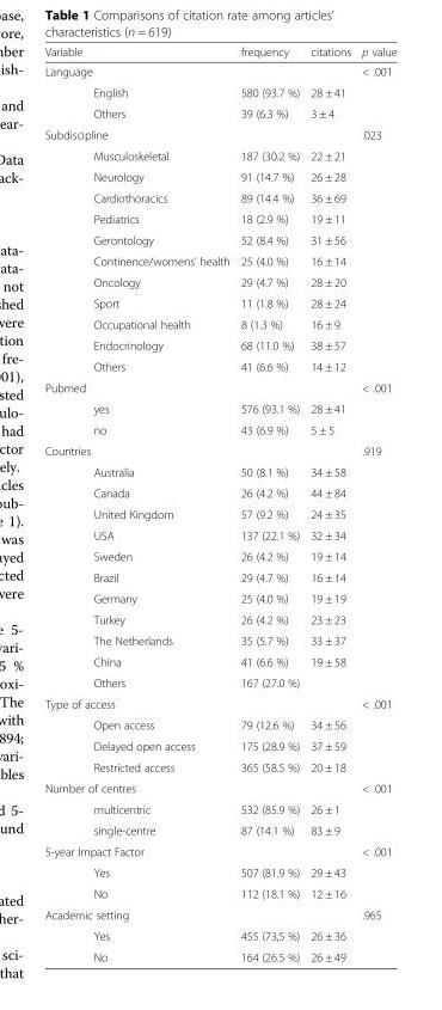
<table><thead><tr><td>Variable</td><td></td><td>frequency</td><td>citations</td><td>p value</td></tr></thead><tbody><tr><td colspan="3">Language</td><td></td><td>&lt; .001</td></tr><tr><td rowspan="2"></td><td>English</td><td>580 (93.7 %)</td><td>28 ± 41</td><td></td></tr><tr><td>Others</td><td>39 (6.3 %)</td><td>3 ± 4</td><td></td></tr><tr><td colspan="3">Subdiscipline</td><td></td><td>.023</td></tr><tr><td rowspan="11"></td><td>Musculoskeletal</td><td>187 (30.2 %)</td><td>22 ± 21</td><td></td></tr><tr><td>Neurology</td><td>91 (14.7 %)</td><td>26 ± 28</td><td></td></tr><tr><td>Cardiothoracics</td><td>89 (14.4 %)</td><td>36 ± 69</td><td></td></tr><tr><td>Pediatrics</td><td>18 (2.9 %)</td><td>19 ± 11</td><td></td></tr><tr><td>Gerontology</td><td>52 (8.4 %)</td><td>31 ± 56</td><td></td></tr><tr><td>Continence/womens’ health</td><td>25 (4.0 %)</td><td>16 ± 14</td><td></td></tr><tr><td>Oncology</td><td>29 (4.7 %)</td><td>28 ± 20</td><td></td></tr><tr><td>Sport</td><td>11 (1.8 %)</td><td>28 ± 24</td><td></td></tr><tr><td>Occupational health</td><td>8 (1.3 %)</td><td>16 ± 9</td><td></td></tr><tr><td>Endocrinology</td><td>68 (11.0 %)</td><td>38 ± 57</td><td></td></tr><tr><td>Others</td><td>41 (6.6 %)</td><td>14 ± 12</td><td></td></tr><tr><td colspan="4">Pubmed</td><td>&lt; .001</td></tr><tr><td></td><td>yes</td><td>576 (93.1 %)</td><td>28 ± 41</td><td></td></tr><tr><td></td><td>no</td><td>43 (6.9 %)</td><td>5 ± 5</td><td></td></tr><tr><td colspan="4">Countries</td><td>.919</td></tr><tr><td></td><td>Australia</td><td>50 (8.1 %)</td><td>34 ± 58</td><td></td></tr><tr><td></td><td>Canada</td><td>26 (4.2 %)</td><td>44 ± 84</td><td></td></tr><tr><td></td><td>United Kingdom</td><td>57 (9.2 %)</td><td>24 ± 35</td><td></td></tr><tr><td></td><td>USA</td><td>137 (22.1 %)</td><td>32 ± 34</td><td></td></tr><tr><td></td><td>Sweden</td><td>26 (4.2 %)</td><td>19 ± 14</td><td></td></tr><tr><td></td><td>Brazil</td><td>29 (4.7 %)</td><td>16 ± 14</td><td></td></tr><tr><td></td><td>Germany</td><td>25 (4.0 %)</td><td>19 ± 19</td><td></td></tr><tr><td></td><td>Turkey</td><td>26 (4.2 %)</td><td>23 ± 23</td><td></td></tr><tr><td></td><td>The Netherlands</td><td>35 (5.7 %)</td><td>33 ± 37</td><td></td></tr><tr><td></td><td>China</td><td>41 (6.6 %)</td><td>19 ± 58</td><td></td></tr><tr><td></td><td>Others</td><td>167 (27.0 %)</td><td></td><td></td></tr><tr><td colspan="3">Type of access</td><td></td><td>&lt; .001</td></tr><tr><td rowspan="3"></td><td>Open access</td><td>79 (12.6 %)</td><td>34 ± 56</td><td></td></tr><tr><td>Delayed open access</td><td>175 (28.9 %)</td><td>37 ± 59</td><td></td></tr><tr><td>Restricted access</td><td>365 (58.5 %)</td><td>20 ± 18</td><td></td></tr><tr><td colspan="4">Number of centres</td><td>&lt; .001</td></tr><tr><td></td><td>multicentric</td><td>532 (85.9 %)</td><td>26 ± 1</td><td></td></tr><tr><td></td><td>single-centre</td><td>87 (14.1 %)</td><td>83 ± 9</td><td></td></tr><tr><td colspan="4">5-year Impact Factor</td><td>&lt; .001</td></tr><tr><td></td><td>Yes</td><td>507 (81.9 %)</td><td>29 ± 43</td><td></td></tr><tr><td></td><td>No</td><td>112 (18.1 %)</td><td>12 ± 16</td><td></td></tr><tr><td colspan="4">Academic setting</td><td>.965</td></tr><tr><td></td><td>Yes</td><td>455 (73,5 %)</td><td>26 ± 36</td><td></td></tr><tr><td></td><td>No</td><td>164 (26.5 %)</td><td>26 ± 49</td><td></td></tr></tbody></table>